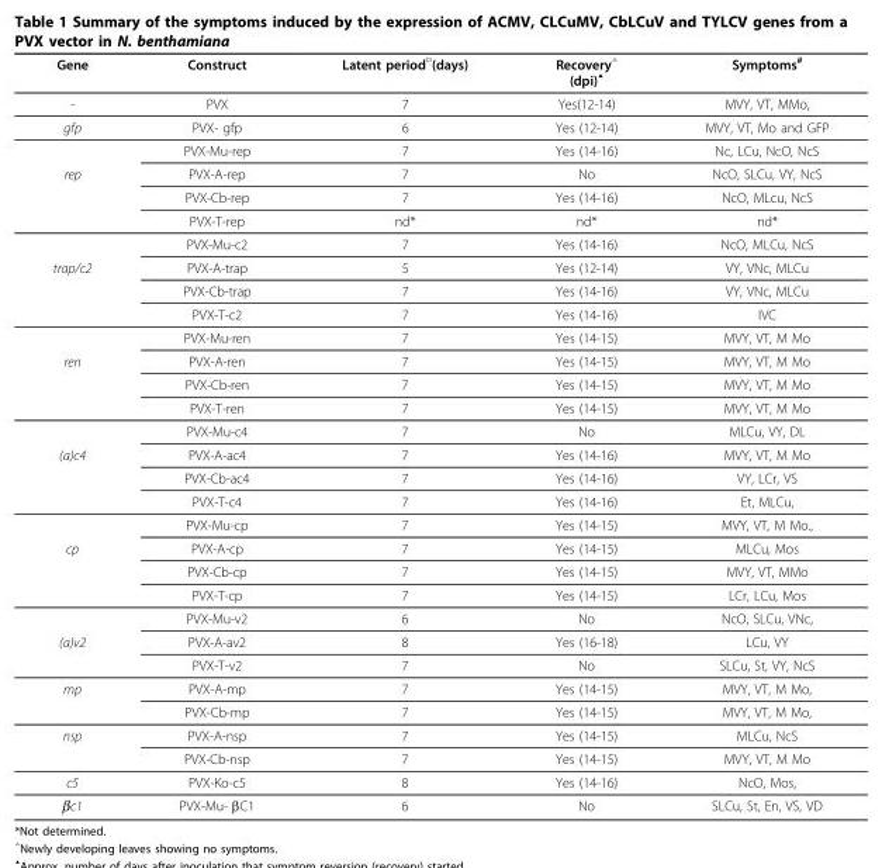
<table><thead><tr><td>Gene</td><td>Construct</td><td>Latent period<sup>□</sup>(days)</td><td>Recovery<sup>△</sup> (dpi)<sup>▲</sup></td><td>Symptoms<sup>#</sup></td></tr></thead><tbody><tr><td>-</td><td>PVX</td><td>7</td><td>Yes(12-14)</td><td>MVY, VT, MMo,</td></tr><tr><td rowspan="2">gfp</td><td>PVX- gfp</td><td>6</td><td>Yes (12-14)</td><td>MVY, VT, Mo and GFP</td></tr><tr><td>PVX-Mu-rep</td><td>7</td><td>Yes (14-16)</td><td>Nc, LCu, NcO, NcS</td></tr><tr><td rowspan="4">rep</td><td>PVX-A-rep</td><td>7</td><td>No</td><td>NcO, SLCu, VY, NcS</td></tr><tr><td>PVX-Cb-rep</td><td>7</td><td>Yes (14-16)</td><td>NcO, MLcu, NcS</td></tr><tr><td>PVX-T-rep</td><td>nd*</td><td>nd*</td><td>nd*</td></tr><tr><td>PVX-Mu-c2</td><td>7</td><td>Yes (14-16)</td><td>NcO, MLCu, NcS</td></tr><tr><td rowspan="4">trap/c2</td><td>PVX-A-trap</td><td>5</td><td>Yes (12-14)</td><td>VY, VNc, MLCu</td></tr><tr><td>PVX-Cb-trap</td><td>7</td><td>Yes (14-16)</td><td>VY, VNc, MLCu</td></tr><tr><td>PVX-T-c2</td><td>7</td><td>Yes (14-16)</td><td>IVC</td></tr><tr><td>PVX-Mu-ren</td><td>7</td><td>Yes (14-15)</td><td>MVY, VT, M Mo</td></tr><tr><td rowspan="4">ren</td><td>PVX-A-ren</td><td>7</td><td>Yes (14-15)</td><td>MVY, VT, M Mo</td></tr><tr><td>PVX-Cb-ren</td><td>7</td><td>Yes (14-15)</td><td>MVY, VT, M Mo</td></tr><tr><td>PVX-T-ren</td><td>7</td><td>Yes (14-15)</td><td>MVY, VT, M Mo</td></tr><tr><td>PVX-Mu-c4</td><td>7</td><td>No</td><td>MLCu, VY, DL</td></tr><tr><td rowspan="4">(a)c4</td><td>PVX-A-ac4</td><td>7</td><td>Yes (14-16)</td><td>MVY, VT, M Mo</td></tr><tr><td>PVX-Cb-ac4</td><td>7</td><td>Yes (14-16)</td><td>VY, LCr, VS</td></tr><tr><td>PVX-T-c4</td><td>7</td><td>Yes (14-16)</td><td>Et, MLCu,</td></tr><tr><td>PVX-Mu-cp</td><td>7</td><td>Yes (14-15)</td><td>MVY, VT, M Mo.,</td></tr><tr><td rowspan="4">cp</td><td>PVX-A-cp</td><td>7</td><td>Yes (14-15)</td><td>MLCu, Mos</td></tr><tr><td>PVX-Cb-cp</td><td>7</td><td>Yes (14-15)</td><td>MVY, VT, MMo</td></tr><tr><td>PVX-T-cp</td><td>7</td><td>Yes (14-15)</td><td>LCr, LCu, Mos</td></tr><tr><td>PVX-Mu-v2</td><td>6</td><td>No</td><td>NcO, SLCu, VNc,</td></tr><tr><td rowspan="2">(a)v2</td><td>PVX-A-av2</td><td>8</td><td>Yes (16-18)</td><td>LCu, VY</td></tr><tr><td>PVX-T-v2</td><td>7</td><td>No</td><td>SLCu, St, VY, NcS</td></tr><tr><td rowspan="2">mp</td><td>PVX-A-mp</td><td>7</td><td>Yes (14-15)</td><td>MVY, VT, M Mo,</td></tr><tr><td>PVX-Cb-mp</td><td>7</td><td>Yes (14-15)</td><td>MVY, VT, M Mo,</td></tr><tr><td rowspan="2">nsp</td><td>PVX-A-nsp</td><td>7</td><td>Yes (14-15)</td><td>MLCu, NcS</td></tr><tr><td>PVX-Cb-nsp</td><td>7</td><td>Yes (14-15)</td><td>MVY, VT, M Mo</td></tr><tr><td>c5</td><td>PVX-Ko-c5</td><td>8</td><td>Yes (14-16)</td><td>NcO, Mos,</td></tr><tr><td>βc1</td><td>PVX-Mu- βC1</td><td>6</td><td>No</td><td>SLCu, St, En, VS, VD</td></tr></tbody></table>